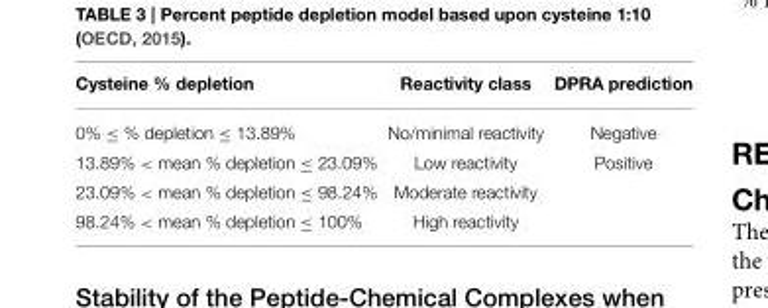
<table><thead><tr><td>Cysteine % depletion</td><td>Reactivity class</td><td>DPRA prediction</td></tr></thead><tbody><tr><td>0% ≤ % depletion ≤ 13.89%</td><td>No/minimal reactivity</td><td>Negative</td></tr><tr><td>13.89% &lt; mean % depletion ≤ 23.09%</td><td>Low reactivity</td><td>Positive</td></tr><tr><td>23.09% &lt; mean % depletion ≤ 98.24%</td><td>Moderate reactivity</td><td></td></tr><tr><td>98.24% &lt; mean % depletion ≤ 100%</td><td>High reactivity</td><td></td></tr></tbody></table>